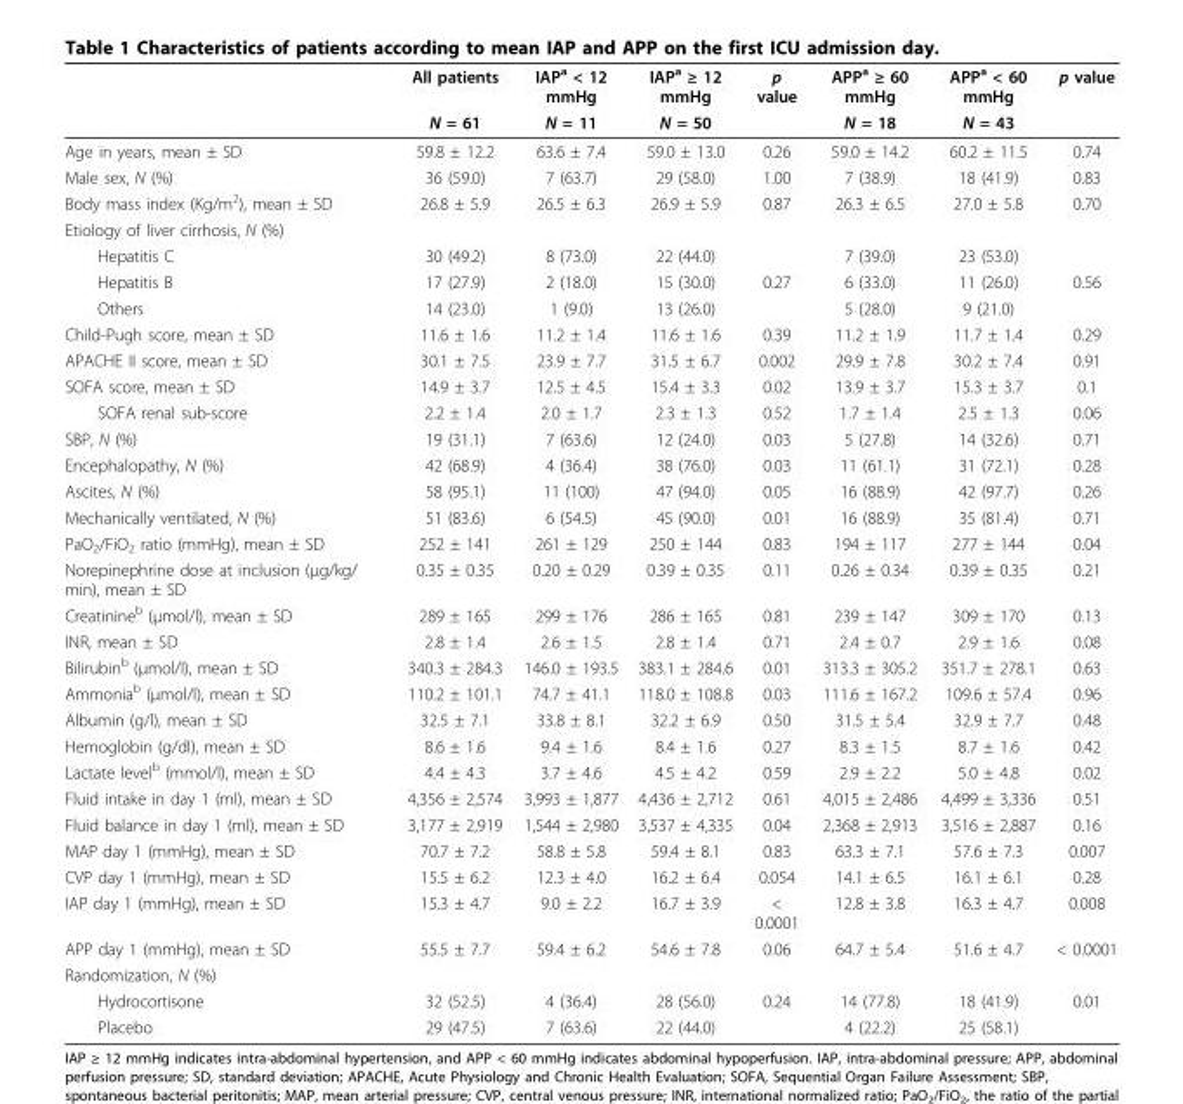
<table><thead><tr><td rowspan="2"></td><td rowspan="2">All patients N = 61</td><td rowspan="2">IAP<sup>a</sup> &lt; 12 mmHg N = 11</td><td rowspan="2">IAP<sup>a</sup> ≥ 12 mmHg N = 50</td><td rowspan="2">p value</td><td rowspan="2">APP<sup>a</sup> ≥ 60 mmHg N = 18</td><td rowspan="2">APP<sup>a</sup> &lt; 60 mmHg N = 43</td><td rowspan="2">p value</td></tr><tr></tr></thead><tbody><tr><td>Age in years, mean ± SD</td><td>59.8 ± 12.2</td><td>63.6 ± 7.4</td><td>59.0 ± 13.0</td><td>0.26</td><td>59.0 ± 14.2</td><td>60.2 ± 11.5</td><td>0.74</td></tr><tr><td>Male sex, N (%)</td><td>36 (59.0)</td><td>7 (63.7)</td><td>29 (58.0)</td><td>1.00</td><td>7 (38.9)</td><td>18 (41.9)</td><td>0.83</td></tr><tr><td>Body mass index (Kg/m<sup>2</sup>), mean ± SD</td><td>26.8 ± 5.9</td><td>26.5 ± 6.3</td><td>26.9 ± 5.9</td><td>0.87</td><td>26.3 ± 6.5</td><td>27.0 ± 5.8</td><td>0.70</td></tr><tr><td colspan="8">Etiology of liver cirrhosis, N (%)</td></tr><tr><td>Hepatitis C</td><td>30 (49.2)</td><td>8 (73.0)</td><td>22 (44.0)</td><td></td><td>7 (39.0)</td><td>23 (53.0)</td><td></td></tr><tr><td>Hepatitis B</td><td>17 (27.9)</td><td>2 (18.0)</td><td>15 (30.0)</td><td>0.27</td><td>6 (33.0)</td><td>11 (26.0)</td><td>0.56</td></tr><tr><td>Others</td><td>14 (23.0)</td><td>1 (9.0)</td><td>13 (26.0)</td><td></td><td>5 (28.0)</td><td>9 (21.0)</td><td></td></tr><tr><td>Child-Pugh score, mean ± SD</td><td>11.6 ± 1.6</td><td>11.2 ± 1.4</td><td>11.6 ± 1.6</td><td>0.39</td><td>11.2 ± 1.9</td><td>11.7 ± 1.4</td><td>0.29</td></tr><tr><td>APACHE II score, mean ± SD</td><td>30.1 ± 7.5</td><td>23.9 ± 7.7</td><td>31.5 ± 6.7</td><td>0.002</td><td>29.9 ± 7.8</td><td>30.2 ± 7.4</td><td>0.91</td></tr><tr><td>SOFA score, mean ± SD</td><td>14.9 ± 3.7</td><td>12.5 ± 4.5</td><td>15.4 ± 3.3</td><td>0.02</td><td>13.9 ± 3.7</td><td>15.3 ± 3.7</td><td>0.1</td></tr><tr><td>SOFA renal sub-score</td><td>2.2 ± 1.4</td><td>2.0 ± 1.7</td><td>2.3 ± 1.3</td><td>0.52</td><td>1.7 ± 1.4</td><td>2.5 ± 1.3</td><td>0.06</td></tr><tr><td>SBP, N (%)</td><td>19 (31.1)</td><td>7 (63.6)</td><td>12 (24.0)</td><td>0.03</td><td>5 (27.8)</td><td>14 (32.6)</td><td>0.71</td></tr><tr><td>Encephalopathy, N (%)</td><td>42 (68.9)</td><td>4 (36.4)</td><td>38 (76.0)</td><td>0.03</td><td>11 (61.1)</td><td>31 (72.1)</td><td>0.28</td></tr><tr><td>Ascites, N (%)</td><td>58 (95.1)</td><td>11 (100)</td><td>47 (94.0)</td><td>0.05</td><td>16 (88.9)</td><td>42 (97.7)</td><td>0.26</td></tr><tr><td>Mechanically ventilated, N (%)</td><td>51 (83.6)</td><td>6 (54.5)</td><td>45 (90.0)</td><td>0.01</td><td>16 (88.9)</td><td>35 (81.4)</td><td>0.71</td></tr><tr><td>PaO<sub>2</sub>/FiO<sub>2</sub> ratio (mmHg), mean ± SD</td><td>252 ± 141</td><td>261 ± 129</td><td>250 ± 144</td><td>0.83</td><td>194 ± 117</td><td>277 ± 144</td><td>0.04</td></tr><tr><td>Norepinephrine dose at inclusion (μg/kg/ min), mean ± SD</td><td>0.35 ± 0.35</td><td>0.20 ± 0.29</td><td>0.39 ± 0.35</td><td>0.11</td><td>0.26 ± 0.34</td><td>0.39 ± 0.35</td><td>0.21</td></tr><tr><td>Creatinine<sup>b</sup> (μmol/l), mean ± SD</td><td>289 ± 165</td><td>299 ± 176</td><td>286 ± 165</td><td>0.81</td><td>239 ± 147</td><td>309 ± 170</td><td>0.13</td></tr><tr><td>INR, mean ± SD</td><td>2.8 ± 1.4</td><td>2.6 ± 1.5</td><td>2.8 ± 1.4</td><td>0.71</td><td>2.4 ± 0.7</td><td>2.9 ± 1.6</td><td>0.08</td></tr><tr><td>Bilirubin<sup>b</sup> (μmol/l), mean ± SD</td><td>340.3 ± 284.3</td><td>146.0 ± 193.5</td><td>383.1 ± 284.6</td><td>0.01</td><td>313.3 ± 305.2</td><td>351.7 ± 278.1</td><td>0.63</td></tr><tr><td>Ammonia<sup>b</sup> (μmol/l), mean ± SD</td><td>110.2 ± 101.1</td><td>74.7 ± 41.1</td><td>118.0 ± 108.8</td><td>0.03</td><td>111.6 ± 167.2</td><td>109.6 ± 57.4</td><td>0.96</td></tr><tr><td>Albumin (g/l), mean ± SD</td><td>32.5 ± 7.1</td><td>33.8 ± 8.1</td><td>32.2 ± 6.9</td><td>0.50</td><td>31.5 ± 5.4</td><td>32.9 ± 7.7</td><td>0.48</td></tr><tr><td>Hemoglobin (g/dl), mean ± SD</td><td>8.6 ± 1.6</td><td>9.4 ± 1.6</td><td>8.4 ± 1.6</td><td>0.27</td><td>8.3 ± 1.5</td><td>8.7 ± 1.6</td><td>0.42</td></tr><tr><td>Lactate level<sup>b</sup> (mmol/l), mean ± SD</td><td>4.4 ± 4.3</td><td>3.7 ± 4.6</td><td>4.5 ± 4.2</td><td>0.59</td><td>2.9 ± 2.2</td><td>5.0 ± 4.8</td><td>0.02</td></tr><tr><td>Fluid intake in day 1 (ml), mean ± SD</td><td>4,356 ± 2,574</td><td>3,993 ± 1,877</td><td>4,436 ± 2,712</td><td>0.61</td><td>4,015 ± 2,486</td><td>4,499 ± 3,336</td><td>0.51</td></tr><tr><td>Fluid balance in day 1 (ml), mean ± SD</td><td>3,177 ± 2,919</td><td>1,544 ± 2,980</td><td>3,537 ± 4,335</td><td>0.04</td><td>2,368 ± 2,913</td><td>3,516 ± 2,887</td><td>0.16</td></tr><tr><td>MAP day 1 (mmHg), mean ± SD</td><td>70.7 ± 7.2</td><td>58.8 ± 5.8</td><td>59.4 ± 8.1</td><td>0.83</td><td>63.3 ± 7.1</td><td>57.6 ± 7.3</td><td>0.007</td></tr><tr><td>CVP day 1 (mmHg), mean ± SD</td><td>15.5 ± 6.2</td><td>12.3 ± 4.0</td><td>16.2 ± 6.4</td><td>0.054</td><td>14.1 ± 6.5</td><td>16.1 ± 6.1</td><td>0.28</td></tr><tr><td>IAP day 1 (mmHg), mean ± SD</td><td>15.3 ± 4.7</td><td>9.0 ± 2.2</td><td>16.7 ± 3.9</td><td>&lt; 0.0001</td><td>12.8 ± 3.8</td><td>16.3 ± 4.7</td><td>0.008</td></tr><tr><td>APP day 1 (mmHg), mean ± SD</td><td>55.5 ± 7.7</td><td>59.4 ± 6.2</td><td>54.6 ± 7.8</td><td>0.06</td><td>64.7 ± 5.4</td><td>51.6 ± 4.7</td><td>&lt; 0.0001</td></tr><tr><td colspan="8">Randomization, N (%)</td></tr><tr><td>Hydrocortisone</td><td>32 (52.5)</td><td>4 (36.4)</td><td>28 (56.0)</td><td>0.24</td><td>14 (77.8)</td><td>18 (41.9)</td><td>0.01</td></tr><tr><td>Placebo</td><td>29 (47.5)</td><td>7 (63.6)</td><td>22 (44.0)</td><td></td><td>4 (22.2)</td><td>25 (58.1)</td><td></td></tr></tbody></table>